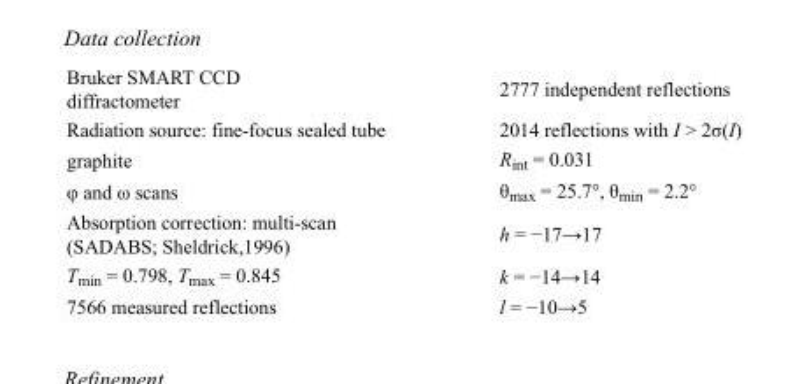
<table><tbody><tr><td>Bruker SMART CCD diffractometer</td><td>2777 independent reflections</td></tr><tr><td>Radiation source: fine-focus sealed tube</td><td>2014 reflections with I &gt; 2σ(I)</td></tr><tr><td>graphite</td><td>R<sub>int</sub> = 0.031</td></tr><tr><td>φ and ω scans</td><td>θ<sub>max</sub> = 25.7°, θ<sub>min</sub> = 2.2°</td></tr><tr><td>Absorption correction: multi-scan (SADABS; Sheldrick,1996)</td><td>h = −17→17</td></tr><tr><td>T<sub>min</sub> = 0.798, T<sub>max</sub> = 0.845</td><td>k = −14→14</td></tr><tr><td>7566 measured reflections</td><td>l = −10→5</td></tr></tbody></table>